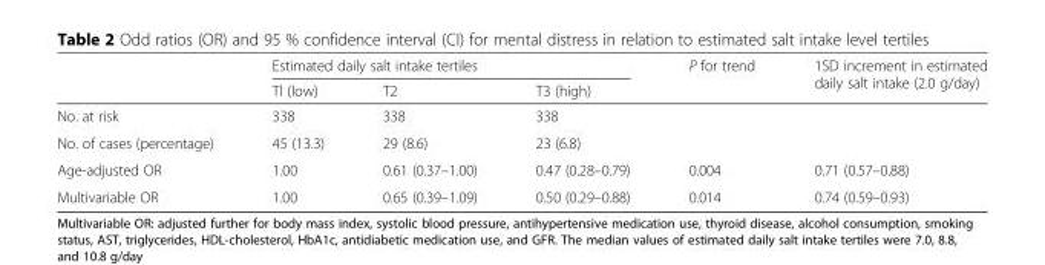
<table><thead><tr><td rowspan="2"></td><td colspan="3">Estimated daily salt intake tertiles</td><td rowspan="2">P for trend</td><td rowspan="2">1SD increment in estimated daily salt intake (2.0 g/day)</td></tr><tr><td>Tl (low)</td><td>T2</td><td>T3 (high)</td></tr></thead><tbody><tr><td>No. at risk</td><td>338</td><td>338</td><td>338</td><td></td><td></td></tr><tr><td>No. of cases (percentage)</td><td>45 (13.3)</td><td>29 (8.6)</td><td>23 (6.8)</td><td></td><td></td></tr><tr><td>Age-adjusted OR</td><td>1.00</td><td>0.61 (0.37–1.00)</td><td>0.47 (0.28–0.79)</td><td>0.004</td><td>0.71 (0.57–0.88)</td></tr><tr><td>Multivariable OR</td><td>1.00</td><td>0.65 (0.39–1.09)</td><td>0.50 (0.29–0.88)</td><td>0.014</td><td>0.74 (0.59–0.93)</td></tr></tbody></table>